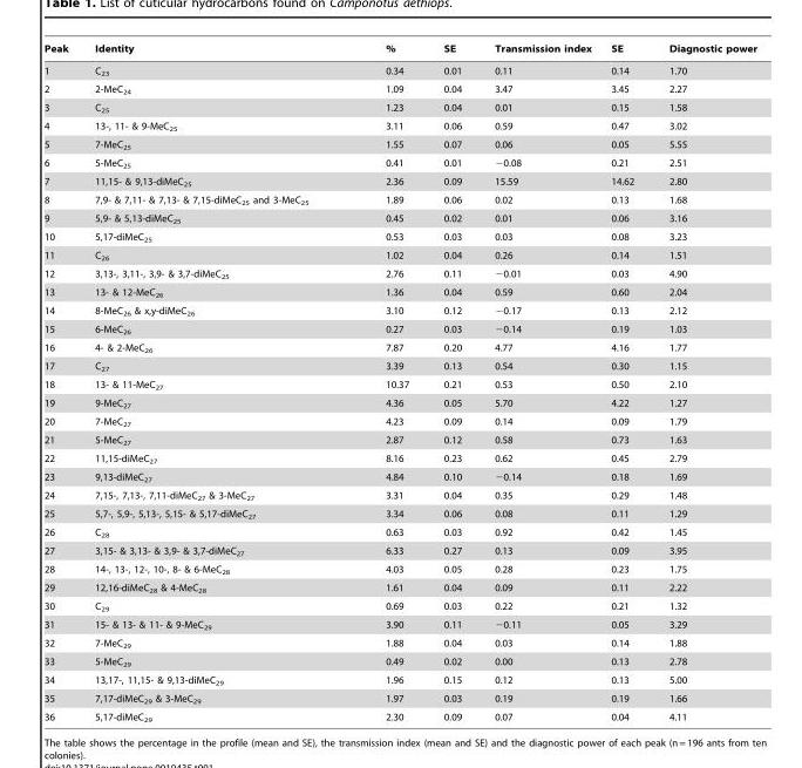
<table><thead><tr><td>Peak</td><td>Identity</td><td>%</td><td>SE</td><td>Transmission index</td><td>SE</td><td>Diagnostic power</td></tr></thead><tbody><tr><td>1</td><td>C<sub>23</sub></td><td>0.34</td><td>0.01</td><td>0.11</td><td>0.14</td><td>1.70</td></tr><tr><td>2</td><td>2-MeC<sub>24</sub></td><td>1.09</td><td>0.04</td><td>3.47</td><td>3.45</td><td>2.27</td></tr><tr><td>3</td><td>C<sub>25</sub></td><td>1.23</td><td>0.04</td><td>0.01</td><td>0.15</td><td>1.58</td></tr><tr><td>4</td><td>13-, 11- &amp; 9-MeC<sub>25</sub></td><td>3.11</td><td>0.06</td><td>0.59</td><td>0.47</td><td>3.02</td></tr><tr><td>5</td><td>7-MeC<sub>25</sub></td><td>1.55</td><td>0.07</td><td>0.06</td><td>0.05</td><td>5.55</td></tr><tr><td>6</td><td>5-MeC<sub>25</sub></td><td>0.41</td><td>0.01</td><td>−0.08</td><td>0.21</td><td>2.51</td></tr><tr><td>7</td><td>11,15- &amp; 9,13-diMeC<sub>25</sub></td><td>2.36</td><td>0.09</td><td>15.59</td><td>14.62</td><td>2.80</td></tr><tr><td>8</td><td>7,9- &amp; 7,11- &amp; 7,13- &amp; 7,15-diMeC<sub>25</sub> and 3-MeC<sub>25</sub></td><td>1.89</td><td>0.06</td><td>0.02</td><td>0.13</td><td>1.68</td></tr><tr><td>9</td><td>5,9- &amp; 5,13-diMeC<sub>25</sub></td><td>0.45</td><td>0.02</td><td>0.01</td><td>0.06</td><td>3.16</td></tr><tr><td>10</td><td>5,17-diMeC<sub>25</sub></td><td>0.53</td><td>0.03</td><td>0.03</td><td>0.08</td><td>3.23</td></tr><tr><td>11</td><td>C<sub>26</sub></td><td>1.02</td><td>0.04</td><td>0.26</td><td>0.14</td><td>1.51</td></tr><tr><td>12</td><td>3,13-, 3,11-, 3,9- &amp; 3,7-diMeC<sub>25</sub></td><td>2.76</td><td>0.11</td><td>−0.01</td><td>0.03</td><td>4.90</td></tr><tr><td>13</td><td>13- &amp; 12-MeC<sub>26</sub></td><td>1.36</td><td>0.04</td><td>0.59</td><td>0.60</td><td>2.04</td></tr><tr><td>14</td><td>8-MeC<sub>26</sub> &amp; x,y-diMeC<sub>26</sub></td><td>3.10</td><td>0.12</td><td>−0.17</td><td>0.13</td><td>2.12</td></tr><tr><td>15</td><td>6-MeC<sub>26</sub></td><td>0.27</td><td>0.03</td><td>−0.14</td><td>0.19</td><td>1.03</td></tr><tr><td>16</td><td>4- &amp; 2-MeC<sub>26</sub></td><td>7.87</td><td>0.20</td><td>4.77</td><td>4.16</td><td>1.77</td></tr><tr><td>17</td><td>C<sub>27</sub></td><td>3.39</td><td>0.13</td><td>0.54</td><td>0.30</td><td>1.15</td></tr><tr><td>18</td><td>13- &amp; 11-MeC<sub>27</sub></td><td>10.37</td><td>0.21</td><td>0.53</td><td>0.50</td><td>2.10</td></tr><tr><td>19</td><td>9-MeC<sub>27</sub></td><td>4.36</td><td>0.05</td><td>5.70</td><td>4.22</td><td>1.27</td></tr><tr><td>20</td><td>7-MeC<sub>27</sub></td><td>4.23</td><td>0.09</td><td>0.14</td><td>0.09</td><td>1.79</td></tr><tr><td>21</td><td>5-MeC<sub>27</sub></td><td>2.87</td><td>0.12</td><td>0.58</td><td>0.73</td><td>1.63</td></tr><tr><td>22</td><td>11,15-diMeC<sub>27</sub></td><td>8.16</td><td>0.23</td><td>0.62</td><td>0.45</td><td>2.79</td></tr><tr><td>23</td><td>9,13-diMeC<sub>27</sub></td><td>4.84</td><td>0.10</td><td>−0.14</td><td>0.18</td><td>1.69</td></tr><tr><td>24</td><td>7,15-, 7,13-, 7,11-diMeC<sub>27</sub> &amp; 3-MeC<sub>27</sub></td><td>3.31</td><td>0.04</td><td>0.35</td><td>0.29</td><td>1.48</td></tr><tr><td>25</td><td>5,7-, 5,9-, 5,13-, 5,15- &amp; 5,17-diMeC<sub>27</sub></td><td>3.34</td><td>0.06</td><td>0.08</td><td>0.11</td><td>1.29</td></tr><tr><td>26</td><td>C<sub>28</sub></td><td>0.63</td><td>0.03</td><td>0.92</td><td>0.42</td><td>1.45</td></tr><tr><td>27</td><td>3,15- &amp; 3,13- &amp; 3,9- &amp; 3,7-diMeC<sub>27</sub></td><td>6.33</td><td>0.27</td><td>0.13</td><td>0.09</td><td>3.95</td></tr><tr><td>28</td><td>14-, 13-, 12-, 10-, 8- &amp; 6-MeC<sub>28</sub></td><td>4.03</td><td>0.05</td><td>0.28</td><td>0.23</td><td>1.75</td></tr><tr><td>29</td><td>12,16-diMeC<sub>28</sub> &amp; 4-MeC<sub>28</sub></td><td>1.61</td><td>0.04</td><td>0.09</td><td>0.11</td><td>2.22</td></tr><tr><td>30</td><td>C<sub>29</sub></td><td>0.69</td><td>0.03</td><td>0.22</td><td>0.21</td><td>1.32</td></tr><tr><td>31</td><td>15- &amp; 13- &amp; 11- &amp; 9-MeC<sub>29</sub></td><td>3.90</td><td>0.11</td><td>−0.11</td><td>0.05</td><td>3.29</td></tr><tr><td>32</td><td>7-MeC<sub>29</sub></td><td>1.88</td><td>0.04</td><td>0.03</td><td>0.14</td><td>1.88</td></tr><tr><td>33</td><td>5-MeC<sub>29</sub></td><td>0.49</td><td>0.02</td><td>0.00</td><td>0.13</td><td>2.78</td></tr><tr><td>34</td><td>13,17-, 11,15- &amp; 9,13-diMeC<sub>29</sub></td><td>1.96</td><td>0.15</td><td>0.12</td><td>0.13</td><td>5.00</td></tr><tr><td>35</td><td>7,17-diMeC<sub>29</sub> &amp; 3-MeC<sub>29</sub></td><td>1.97</td><td>0.03</td><td>0.19</td><td>0.19</td><td>1.66</td></tr><tr><td>36</td><td>5,17-diMeC<sub>29</sub></td><td>2.30</td><td>0.09</td><td>0.07</td><td>0.04</td><td>4.11</td></tr></tbody></table>